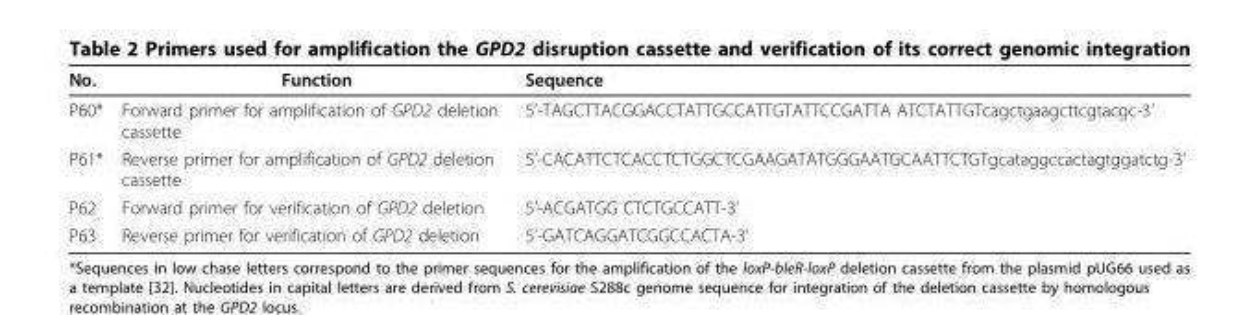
<table><thead><tr><td>No.</td><td>Function</td><td>Sequence</td></tr></thead><tbody><tr><td>P60*</td><td>Forward primer for amplification of GPD2 deletion cassette</td><td>5’-TAGCTTACGGACCTATTGCCATTGTATTCCGATTA ATCTATTGTcagctgaagcttcgtacgc-3’</td></tr><tr><td>P61*</td><td>Reverse primer for amplification of GPD2 deletion cassette</td><td>5’-CACATTCTCACCTCTGGCTCGAAGATATGGGAATGCAATTCTGTgcataggccactagtggatctg-3’</td></tr><tr><td>P62</td><td>Forward primer for verification of GPD2 deletion</td><td>5’-ACGATGG CTCTGCCATT-3’</td></tr><tr><td>P63</td><td>Reverse primer for verification of GPD2 deletion</td><td>5’-GATCAGGATCGGCCACTA-3’</td></tr></tbody></table>